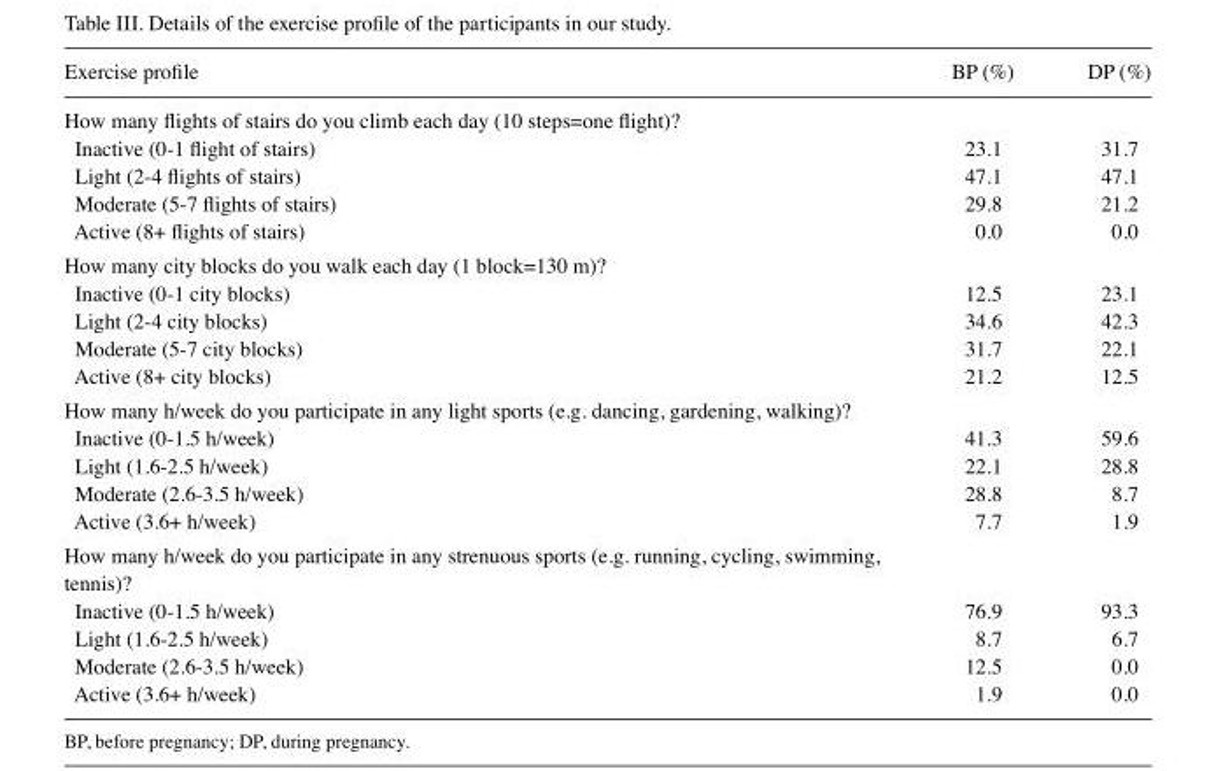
<table><thead><tr><td>Exercise profile</td><td>BP (%)</td><td>DP (%)</td></tr></thead><tbody><tr><td colspan="3">How many flights of stairs do you climb each day (10 steps=one flight)?</td></tr><tr><td>Inactive (0-1 flight of stairs)</td><td>23.1</td><td>31.7</td></tr><tr><td>Light (2-4 flights of stairs)</td><td>47.1</td><td>47.1</td></tr><tr><td>Moderate (5-7 flights of stairs)</td><td>29.8</td><td>21.2</td></tr><tr><td>Active (8+ flights of stairs)</td><td>0.0</td><td>0.0</td></tr><tr><td colspan="3">How many city blocks do you walk each day (1 block=130 m)?</td></tr><tr><td>Inactive (0-1 city blocks)</td><td>12.5</td><td>23.1</td></tr><tr><td>Light (2-4 city blocks)</td><td>34.6</td><td>42.3</td></tr><tr><td>Moderate (5-7 city blocks)</td><td>31.7</td><td>22.1</td></tr><tr><td>Active (8+ city blocks)</td><td>21.2</td><td>12.5</td></tr><tr><td colspan="3">How many h/week do you participate in any light sports (e.g. dancing, gardening, walking)?</td></tr><tr><td>Inactive (0-1.5 h/week)</td><td>41.3</td><td>59.6</td></tr><tr><td>Light (1.6-2.5 h/week)</td><td>22.1</td><td>28.8</td></tr><tr><td>Moderate (2.6-3.5 h/week)</td><td>28.8</td><td>8.7</td></tr><tr><td>Active (3.6+ h/week)</td><td>7.7</td><td>1.9</td></tr><tr><td colspan="3">How many h/week do you participate in any strenuous sports (e.g. running, cycling, swimming, tennis)?</td></tr><tr><td>Inactive (0-1.5 h/week)</td><td>76.9</td><td>93.3</td></tr><tr><td>Light (1.6-2.5 h/week)</td><td>8.7</td><td>6.7</td></tr><tr><td>Moderate (2.6-3.5 h/week)</td><td>12.5</td><td>0.0</td></tr><tr><td>Active (3.6+ h/week)</td><td>1.9</td><td>0.0</td></tr></tbody></table>